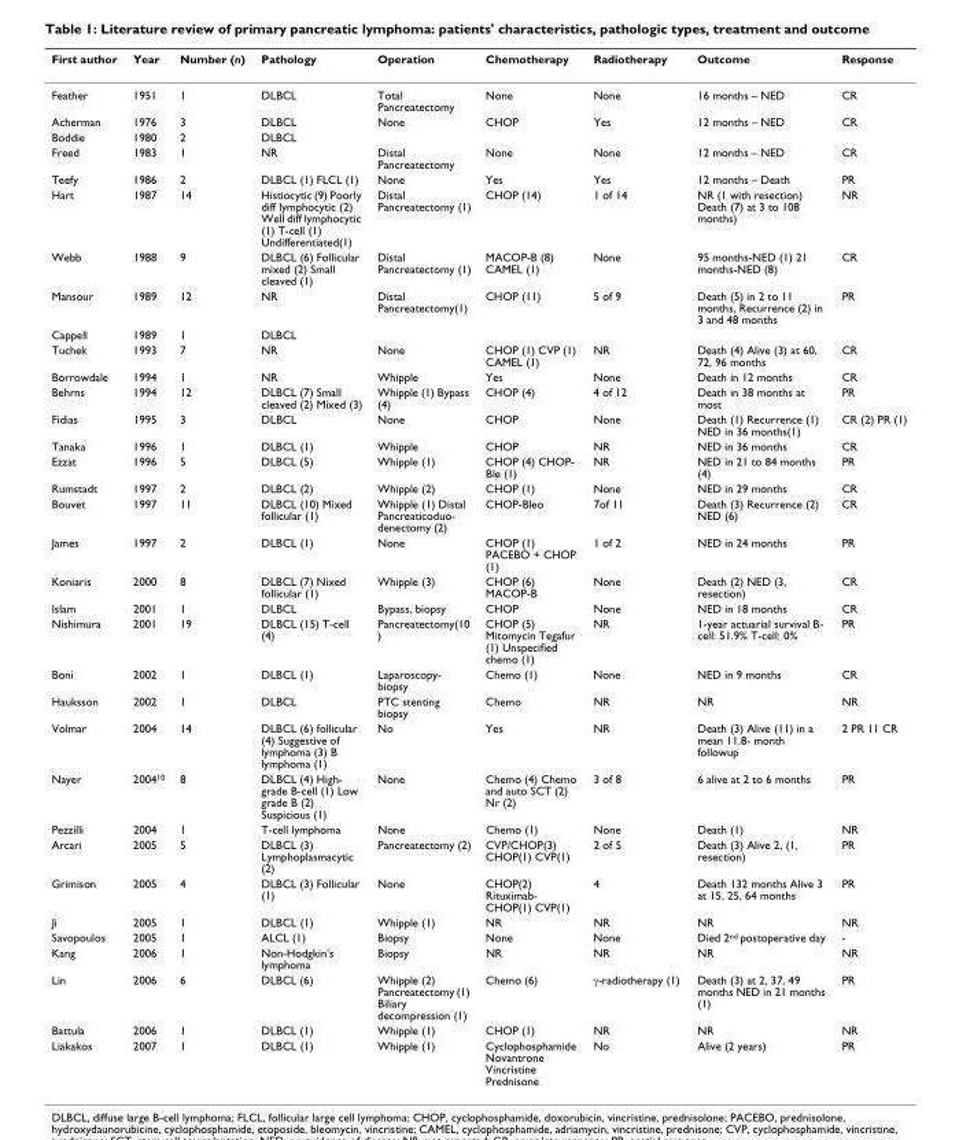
<table><thead><tr><td>First author</td><td>Year</td><td>Number (n)</td><td>Pathology</td><td>Operation</td><td>Chemotherapy</td><td>Radiotherapy</td><td>Outcome</td><td>Response</td></tr></thead><tbody><tr><td>Feather</td><td>1951</td><td>1</td><td>DLBCL</td><td>Total Pancreatectomy</td><td>None</td><td>None</td><td>16 months – NED</td><td>CR</td></tr><tr><td>Acherman</td><td>1976</td><td>3</td><td>DLBCL</td><td>None</td><td>CHOP</td><td>Yes</td><td>12 months – NED</td><td>CR</td></tr><tr><td>Boddie</td><td>1980</td><td>2</td><td>DLBCL</td><td></td><td></td><td></td><td></td><td></td></tr><tr><td>Freed</td><td>1983</td><td>1</td><td>NR</td><td>Distal Pancreatectomy</td><td>None</td><td>None</td><td>12 months – NED</td><td>CR</td></tr><tr><td>Teefy</td><td>1986</td><td>2</td><td>DLBCL (1) FLCL (1)</td><td>None</td><td>Yes</td><td>Yes</td><td>12 months – Death</td><td>PR</td></tr><tr><td>Hart</td><td>1987</td><td>14</td><td>Histiocytic (9) Poorly diff lymphocytic (2) Well diff lymphocytic (1) T-cell (1) Undifferentiated(1)</td><td>Distal Pancreatectomy (1)</td><td>CHOP (14)</td><td>1 of 14</td><td>NR (1 with resection) Death (7) at 3 to 108 months)</td><td>NR</td></tr><tr><td>Webb</td><td>1988</td><td>9</td><td>DLBCL (6) Follicular mixed (2) Small cleaved (1)</td><td>Distal Pancreatectomy (1)</td><td>MACOP-B (8) CAMEL (1)</td><td>None</td><td>95 months-NED (1) 21 months-NED (8)</td><td>CR</td></tr><tr><td>Mansour</td><td>1989</td><td>12</td><td>NR</td><td>Distal Pancreatectomy(1)</td><td>CHOP (11)</td><td>5 of 9</td><td>Death (5) in 2 to 11 months, Recurrence (2) in 3 and 48 months</td><td>PR</td></tr><tr><td>Cappell</td><td>1989</td><td>1</td><td>DLBCL</td><td></td><td></td><td></td><td></td><td></td></tr><tr><td>Tuchek</td><td>1993</td><td>7</td><td>NR</td><td>None</td><td>CHOP (1) CVP (1) CAMEL (1)</td><td>NR</td><td>Death (4) Alive (3) at 60, 72, 96 months</td><td>CR</td></tr><tr><td>Borrowdale</td><td>1994</td><td>1</td><td>NR</td><td>Whipple</td><td>Yes</td><td>None</td><td>Death in 12 months</td><td>CR</td></tr><tr><td>Behrns</td><td>1994</td><td>12</td><td>DLBCL (7) Small cleaved (2) Mixed (3)</td><td>Whipple (1) Bypass (4)</td><td>CHOP (4)</td><td>4 of 12</td><td>Death in 38 months at most</td><td>PR</td></tr><tr><td>Fidias</td><td>1995</td><td>3</td><td>DLBCL</td><td>None</td><td>CHOP</td><td>None</td><td>Death (1) Recurrence (1) NED in 36 months(1)</td><td>CR (2) PR (1)</td></tr><tr><td>Tanaka</td><td>1996</td><td>1</td><td>DLBCL (1)</td><td>Whipple</td><td>CHOP</td><td>NR</td><td>NED in 36 months</td><td>CR</td></tr><tr><td>Ezzat</td><td>1996</td><td>5</td><td>DLBCL (5)</td><td>Whipple (1)</td><td>CHOP (4) CHOP- Ble (1)</td><td>NR</td><td>NED in 21 to 84 months (4)</td><td>PR</td></tr><tr><td>Rumstadt</td><td>1997</td><td>2</td><td>DLBCL (2)</td><td>Whipple (2)</td><td>CHOP (1)</td><td>None</td><td>NED in 29 months</td><td>CR</td></tr><tr><td>Bouvet</td><td>1997</td><td>11</td><td>DLBCL (10) Mixed follicular (1)</td><td>Whipple (1) Distal Pancreaticoduo- denectomy (2)</td><td>CHOP-Bleo</td><td>7of 11</td><td>Death (3) Recurrence (2) NED (6)</td><td>CR</td></tr><tr><td>James</td><td>1997</td><td>2</td><td>DLBCL (1)</td><td>None</td><td>CHOP (1) PACEBO + CHOP (1)</td><td>1 of 2</td><td>NED in 24 months</td><td>PR</td></tr><tr><td>Koniaris</td><td>2000</td><td>8</td><td>DLBCL (7) Nixed follicular (1)</td><td>Whipple (3)</td><td>CHOP (6) MACOP-B</td><td>None</td><td>Death (2) NED (3, resection)</td><td>CR</td></tr><tr><td>Islam</td><td>2001</td><td>1</td><td>DLBCL</td><td>Bypass, biopsy</td><td>CHOP</td><td>None</td><td>NED in 18 months</td><td>CR</td></tr><tr><td>Nishimura</td><td>2001</td><td>19</td><td>DLBCL (15) T-cell (4)</td><td>Pancreatectomy(10 )</td><td>CHOP (5) Mitomycin Tegafur (1) Unspecified chemo (1)</td><td>NR</td><td>1-year actuarial survival B- cell: 51.9% T-cell: 0%</td><td>PR</td></tr><tr><td>Boni</td><td>2002</td><td>1</td><td>DLBCL (1)</td><td>Laparoscopy- biopsy</td><td>Chemo (1)</td><td>None</td><td>NED in 9 months</td><td>CR</td></tr><tr><td>Hauksson</td><td>2002</td><td>1</td><td>DLBCL</td><td>PTC stenting biopsy</td><td>Chemo</td><td>NR</td><td>NR</td><td>NR</td></tr><tr><td>Volmar</td><td>2004</td><td>14</td><td>DLBCL (6) follicular (4) Suggestive of lymphoma (3) B lymphoma (1)</td><td>No</td><td>Yes</td><td>NR</td><td>Death (3) Alive (11) in a mean 11.8- month followup</td><td>2 PR 11 CR</td></tr><tr><td>Nayer</td><td>2004<sup>10</sup></td><td>8</td><td>DLBCL (4) High- grade B-cell (1) Low grade B (2) Suspicious (1)</td><td>None</td><td>Chemo (4) Chemo and auto SCT (2) Nr (2)</td><td>3 of 8</td><td>6 alive at 2 to 6 months</td><td>PR</td></tr><tr><td>Pezzilli</td><td>2004</td><td>1</td><td>T-cell lymphoma</td><td>None</td><td>Chemo (1)</td><td>None</td><td>Death (1)</td><td>NR</td></tr><tr><td>Arcari</td><td>2005</td><td>5</td><td>DLBCL (3) Lymphoplasmacytic (2)</td><td>Pancreatectomy (2)</td><td>CVP/CHOP(3) CHOP(1) CVP(1)</td><td>2 of 5</td><td>Death (3) Alive 2, (1, resection)</td><td>PR</td></tr><tr><td>Grimison</td><td>2005</td><td>4</td><td>DLBCL (3) Follicular (1)</td><td>None</td><td>CHOP(2) Rituximab- CHOP(1) CVP(1)</td><td>4</td><td>Death 132 months Alive 3 at 15, 25, 64 months</td><td>PR</td></tr><tr><td>Ji</td><td>2005</td><td>1</td><td>DLBCL (1)</td><td>Whipple (1)</td><td>NR</td><td>NR</td><td>NR</td><td>NR</td></tr><tr><td>Savopoulos</td><td>2005</td><td>1</td><td>ALCL (1)</td><td>Biopsy</td><td>None</td><td>None</td><td>Died 2<sup>nd</sup> postoperative day</td><td>-</td></tr><tr><td>Kang</td><td>2006</td><td>1</td><td>Non-Hodgkin&#x27;s lymphoma</td><td>Biopsy</td><td>NR</td><td>NR</td><td>NR</td><td>NR</td></tr><tr><td>Lin</td><td>2006</td><td>6</td><td>DLBCL (6)</td><td>Whipple (2) Pancreatectomy (1) Biliary decompression (1)</td><td>Chemo (6)</td><td>γ-radiotherapy (1)</td><td>Death (3) at 2, 37, 49 months NED in 21 months (1)</td><td>PR</td></tr><tr><td>Battula</td><td>2006</td><td>1</td><td>DLBCL (1)</td><td>Whipple (1)</td><td>CHOP (1)</td><td>NR</td><td>NR</td><td>NR</td></tr><tr><td>Liakakos</td><td>2007</td><td>1</td><td>DLBCL (1)</td><td>Whipple (1)</td><td>Cyclophosphamide Novantrone Vincristine Prednisone</td><td>No</td><td>Alive (2 years)</td><td>PR</td></tr></tbody></table>